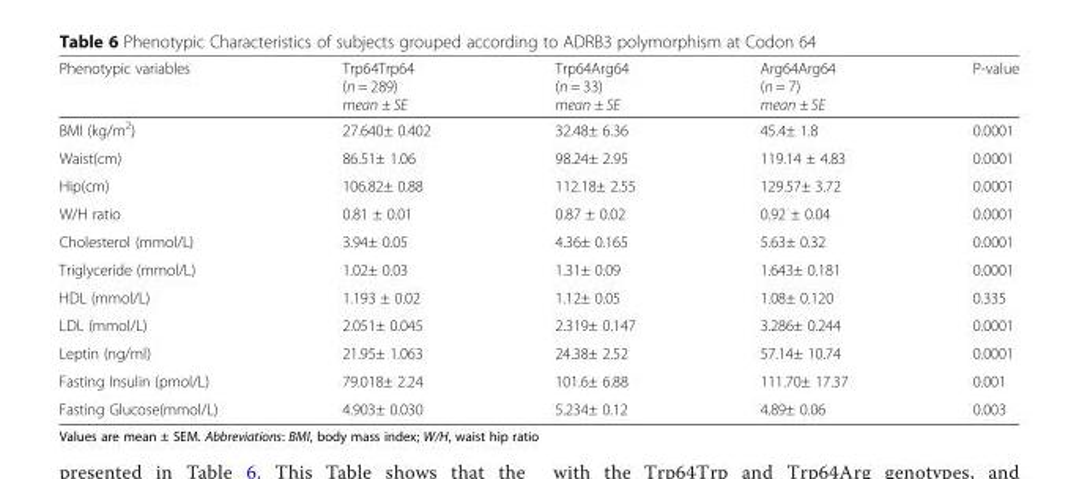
<table><thead><tr><td>Phenotypic variables</td><td>Trp64Trp64 (n = 289) mean ± SE</td><td>Trp64Arg64 (n = 33) mean ± SE</td><td>Arg64Arg64 (n = 7) mean ± SE</td><td>P-value</td></tr></thead><tbody><tr><td>BMI (kg/m<sup>2</sup>)</td><td>27.640± 0.402</td><td>32.48± 6.36</td><td>45.4± 1.8</td><td>0.0001</td></tr><tr><td>Waist(cm)</td><td>86.51± 1.06</td><td>98.24± 2.95</td><td>119.14 ± 4.83</td><td>0.0001</td></tr><tr><td>Hip(cm)</td><td>106.82± 0.88</td><td>112.18± 2.55</td><td>129.57± 3.72</td><td>0.0001</td></tr><tr><td>W/H ratio</td><td>0.81 ± 0.01</td><td>0.87 ± 0.02</td><td>0.92 ± 0.04</td><td>0.0001</td></tr><tr><td>Cholesterol (mmol/L)</td><td>3.94± 0.05</td><td>4.36± 0.165</td><td>5.63± 0.32</td><td>0.0001</td></tr><tr><td>Triglyceride (mmol/L)</td><td>1.02± 0.03</td><td>1.31± 0.09</td><td>1.643± 0.181</td><td>0.0001</td></tr><tr><td>HDL (mmol/L)</td><td>1.193 ± 0.02</td><td>1.12± 0.05</td><td>1.08± 0.120</td><td>0.335</td></tr><tr><td>LDL (mmol/L)</td><td>2.051± 0.045</td><td>2.319± 0.147</td><td>3.286± 0.244</td><td>0.0001</td></tr><tr><td>Leptin (ng/ml)</td><td>21.95± 1.063</td><td>24.38± 2.52</td><td>57.14± 10.74</td><td>0.0001</td></tr><tr><td>Fasting Insulin (pmol/L)</td><td>79.018± 2.24</td><td>101.6± 6.88</td><td>111.70± 17.37</td><td>0.001</td></tr><tr><td>Fasting Glucose(mmol/L)</td><td>4.903± 0.030</td><td>5.234± 0.12</td><td>4.89± 0.06</td><td>0.003</td></tr></tbody></table>